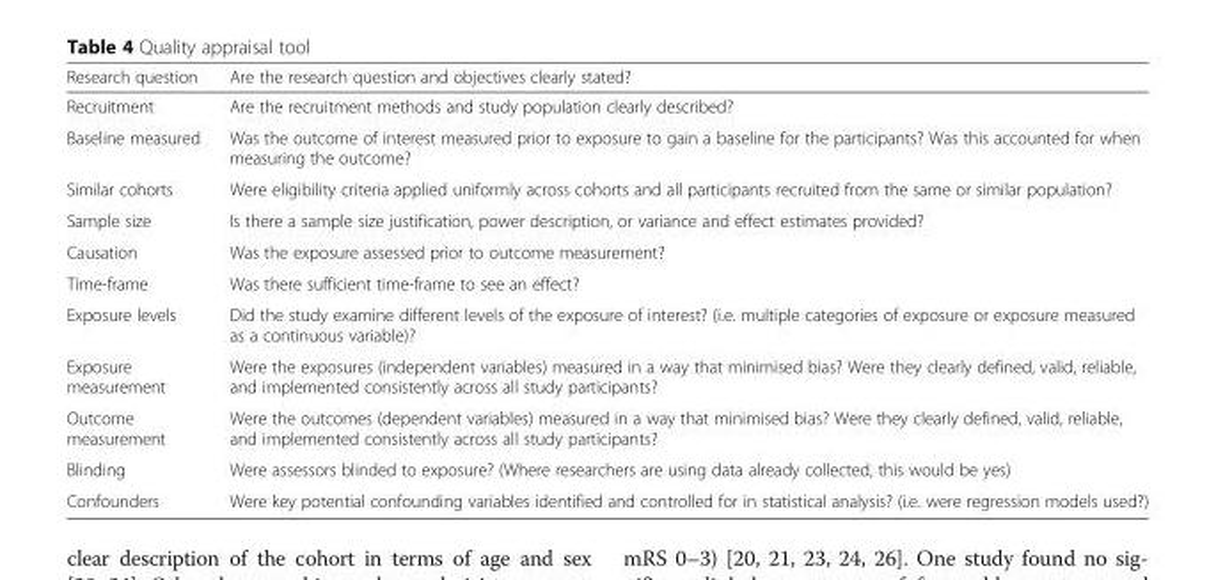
<table><thead><tr><td>Research question</td><td>Are the research question and objectives clearly stated?</td></tr></thead><tbody><tr><td>Recruitment</td><td>Are the recruitment methods and study population clearly described?</td></tr><tr><td>Baseline measured</td><td>Was the outcome of interest measured prior to exposure to gain a baseline for the participants? Was this accounted for when measuring the outcome?</td></tr><tr><td>Similar cohorts</td><td>Were eligibility criteria applied uniformly across cohorts and all participants recruited from the same or similar population?</td></tr><tr><td>Sample size</td><td>Is there a sample size justification, power description, or variance and effect estimates provided?</td></tr><tr><td>Causation</td><td>Was the exposure assessed prior to outcome measurement?</td></tr><tr><td>Time-frame</td><td>Was there sufficient time-frame to see an effect?</td></tr><tr><td>Exposure levels</td><td>Did the study examine different levels of the exposure of interest? (i.e. multiple categories of exposure or exposure measured as a continuous variable)?</td></tr><tr><td>Exposure measurement</td><td>Were the exposures (independent variables) measured in a way that minimised bias? Were they clearly defined, valid, reliable, and implemented consistently across all study participants?</td></tr><tr><td>Outcome measurement</td><td>Were the outcomes (dependent variables) measured in a way that minimised bias? Were they clearly defined, valid, reliable, and implemented consistently across all study participants?</td></tr><tr><td>Blinding</td><td>Were assessors blinded to exposure? (Where researchers are using data already collected, this would be yes)</td></tr><tr><td>Confounders</td><td>Were key potential confounding variables identified and controlled for in statistical analysis? (i.e. were regression models used?)</td></tr></tbody></table>